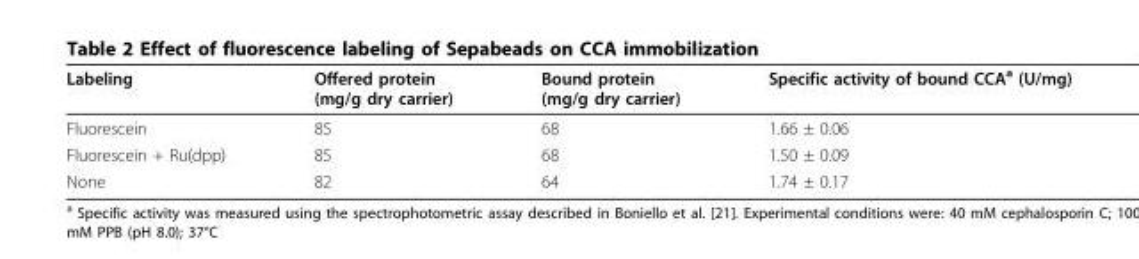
<table><thead><tr><td>Labeling</td><td>Offered protein (mg/g dry carrier)</td><td>Bound protein (mg/g dry carrier)</td><td>Specific activity of bound CCA<sup>a</sup> (U/mg)</td></tr></thead><tbody><tr><td>Fluorescein</td><td>85</td><td>68</td><td>1.66 ± 0.06</td></tr><tr><td>Fluorescein + Ru(dpp)</td><td>85</td><td>68</td><td>1.50 ± 0.09</td></tr><tr><td>None</td><td>82</td><td>64</td><td>1.74 ± 0.17</td></tr></tbody></table>